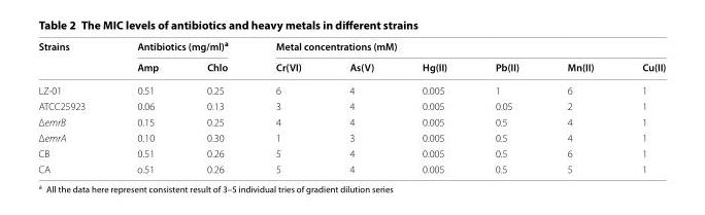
<table><thead><tr><td rowspan="2">Strains</td><td colspan="2">Antibiotics (mg/ml)<sup>a</sup></td><td colspan="6">Metal concentrations (mM)</td></tr><tr><td>Amp</td><td>Chlo</td><td>Cr(VI)</td><td>As(V)</td><td>Hg(II)</td><td>Pb(II)</td><td>Mn(II)</td><td>Cu(II)</td></tr></thead><tbody><tr><td>LZ-01</td><td>0.51</td><td>0.25</td><td>6</td><td>4</td><td>0.005</td><td>1</td><td>6</td><td>1</td></tr><tr><td>ATCC25923</td><td>0.06</td><td>0.13</td><td>3</td><td>4</td><td>0.005</td><td>0.05</td><td>2</td><td>1</td></tr><tr><td>ΔemrB</td><td>0.15</td><td>0.25</td><td>4</td><td>4</td><td>0.005</td><td>0.5</td><td>4</td><td>1</td></tr><tr><td>ΔemrA</td><td>0.10</td><td>0.30</td><td>1</td><td>3</td><td>0.005</td><td>0.5</td><td>4</td><td>1</td></tr><tr><td>CB</td><td>0.51</td><td>0.26</td><td>5</td><td>4</td><td>0.005</td><td>0.5</td><td>6</td><td>1</td></tr><tr><td>CA</td><td>o.51</td><td>0.26</td><td>5</td><td>4</td><td>0.005</td><td>0.5</td><td>5</td><td>1</td></tr></tbody></table>